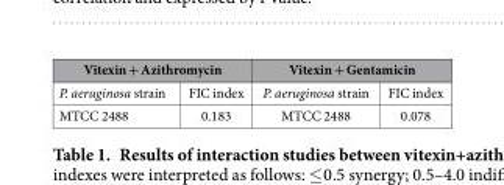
<table><thead><tr><td colspan="2">Vitexin + Azithromycin</td><td colspan="2">Vitexin + Gentamicin</td></tr><tr><td>P. aeruginosa strain</td><td>FIC index</td><td>P. aeruginosa strain</td><td>FIC index</td></tr></thead><tbody><tr><td>MTCC 2488</td><td>0.183</td><td>MTCC 2488</td><td>0.078</td></tr></tbody></table>